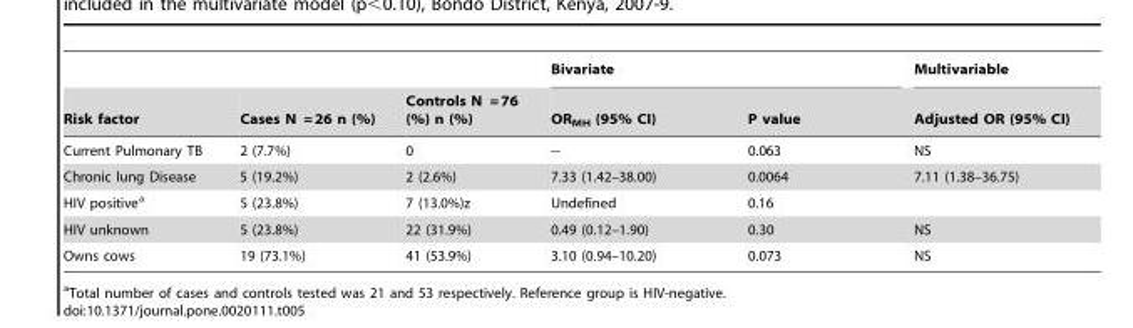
<table><thead><tr><td rowspan="2">Risk factor</td><td rowspan="2">Cases N = 26 n (%)</td><td rowspan="2">Controls N = 76 (%) n (%)</td><td colspan="2">Bivariate</td><td rowspan="2">Multivariable Adjusted OR (95% CI)</td></tr><tr><td>OR<sub>MH</sub> (95% CI)</td><td>P value</td></tr></thead><tbody><tr><td>Current Pulmonary TB</td><td>2 (7.7%)</td><td>0</td><td>--</td><td>0.063</td><td>NS</td></tr><tr><td>Chronic lung Disease</td><td>5 (19.2%)</td><td>2 (2.6%)</td><td>7.33 (1.42–38.00)</td><td>0.0064</td><td>7.11 (1.38–36.75)</td></tr><tr><td>HIV positive<sup>a</sup></td><td>5 (23.8%)</td><td>7 (13.0%)z</td><td>Undefined</td><td>0.16</td><td></td></tr><tr><td>HIV unknown</td><td>5 (23.8%)</td><td>22 (31.9%)</td><td>0.49 (0.12–1.90)</td><td>0.30</td><td>NS</td></tr><tr><td>Owns cows</td><td>19 (73.1%)</td><td>41 (53.9%)</td><td>3.10 (0.94–10.20)</td><td>0.073</td><td>NS</td></tr></tbody></table>